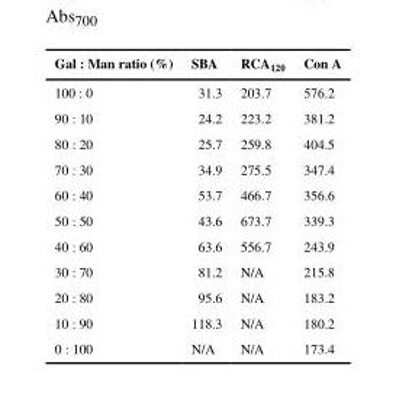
<table><thead><tr><td>Gal : Man ratio (%)</td><td>SBA</td><td>RCA<sub>120</sub></td><td>Con A</td></tr></thead><tbody><tr><td>100 : 0</td><td>31.3</td><td>203.7</td><td>576.2</td></tr><tr><td>90 : 10</td><td>24.2</td><td>223.2</td><td>381.2</td></tr><tr><td>80 : 20</td><td>25.7</td><td>259.8</td><td>404.5</td></tr><tr><td>70 : 30</td><td>34.9</td><td>275.5</td><td>347.4</td></tr><tr><td>60 : 40</td><td>53.7</td><td>466.7</td><td>356.6</td></tr><tr><td>50 : 50</td><td>43.6</td><td>673.7</td><td>339.3</td></tr><tr><td>40 : 60</td><td>63.6</td><td>556.7</td><td>243.9</td></tr><tr><td>30 : 70</td><td>81.2</td><td>N/A</td><td>215.8</td></tr><tr><td>20 : 80</td><td>95.6</td><td>N/A</td><td>183.2</td></tr><tr><td>10 : 90</td><td>118.3</td><td>N/A</td><td>180.2</td></tr><tr><td>0 : 100</td><td>N/A</td><td>N/A</td><td>173.4</td></tr></tbody></table>